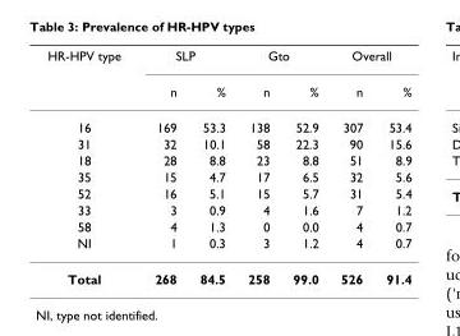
<table><thead><tr><td rowspan="2">HR-HPV type</td><td colspan="2">SLP</td><td colspan="2">Gto</td><td colspan="2">Overall</td></tr><tr><td>n</td><td>%</td><td>n</td><td>%</td><td>n</td><td>%</td></tr></thead><tbody><tr><td>16</td><td>169</td><td>53.3</td><td>138</td><td>52.9</td><td>307</td><td>53.4</td></tr><tr><td>31</td><td>32</td><td>10.1</td><td>58</td><td>22.3</td><td>90</td><td>15.6</td></tr><tr><td>18</td><td>28</td><td>8.8</td><td>23</td><td>8.8</td><td>51</td><td>8.9</td></tr><tr><td>35</td><td>15</td><td>4.7</td><td>17</td><td>6.5</td><td>32</td><td>5.6</td></tr><tr><td>52</td><td>16</td><td>5.1</td><td>15</td><td>5.7</td><td>31</td><td>5.4</td></tr><tr><td>33</td><td>3</td><td>0.9</td><td>4</td><td>1.6</td><td>7</td><td>1.2</td></tr><tr><td>58</td><td>4</td><td>1.3</td><td>0</td><td>0.0</td><td>4</td><td>0.7</td></tr><tr><td>NI</td><td>1</td><td>0.3</td><td>3</td><td>1.2</td><td>4</td><td>0.7</td></tr><tr><td>Total</td><td>268</td><td>84.5</td><td>258</td><td>99.0</td><td>526</td><td>91.4</td></tr></tbody></table>